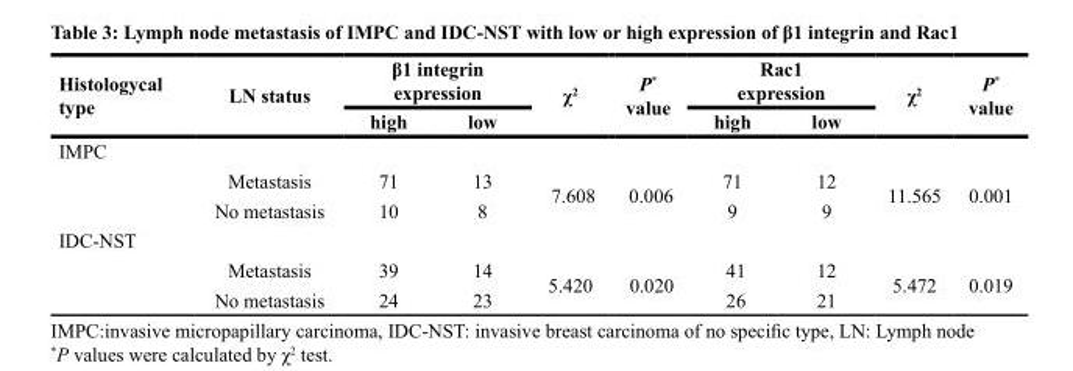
<table><thead><tr><td rowspan="2">Histologycal type</td><td rowspan="2">LN status</td><td colspan="2">β1 integrin expression</td><td rowspan="2">χ<sup>2</sup></td><td rowspan="2">P* value</td><td colspan="2">Rac1 expression</td><td rowspan="2">χ<sup>2</sup></td><td rowspan="2">P* value</td></tr><tr><td>high</td><td>low</td><td>high</td><td>low</td></tr></thead><tbody><tr><td colspan="10">IMPC</td></tr><tr><td rowspan="2"></td><td>Metastasis</td><td>71</td><td>13</td><td rowspan="2">7.608</td><td rowspan="2">0.006</td><td>71</td><td>12</td><td rowspan="2">11.565</td><td rowspan="2">0.001</td></tr><tr><td>No metastasis</td><td>10</td><td>8</td><td>9</td><td>9</td></tr><tr><td colspan="10">IDC-NST</td></tr><tr><td rowspan="2"></td><td>Metastasis</td><td>39</td><td>14</td><td rowspan="2">5.420</td><td rowspan="2">0.020</td><td>41</td><td>12</td><td rowspan="2">5.472</td><td rowspan="2">0.019</td></tr><tr><td>No metastasis</td><td>24</td><td>23</td><td>26</td><td>21</td></tr></tbody></table>